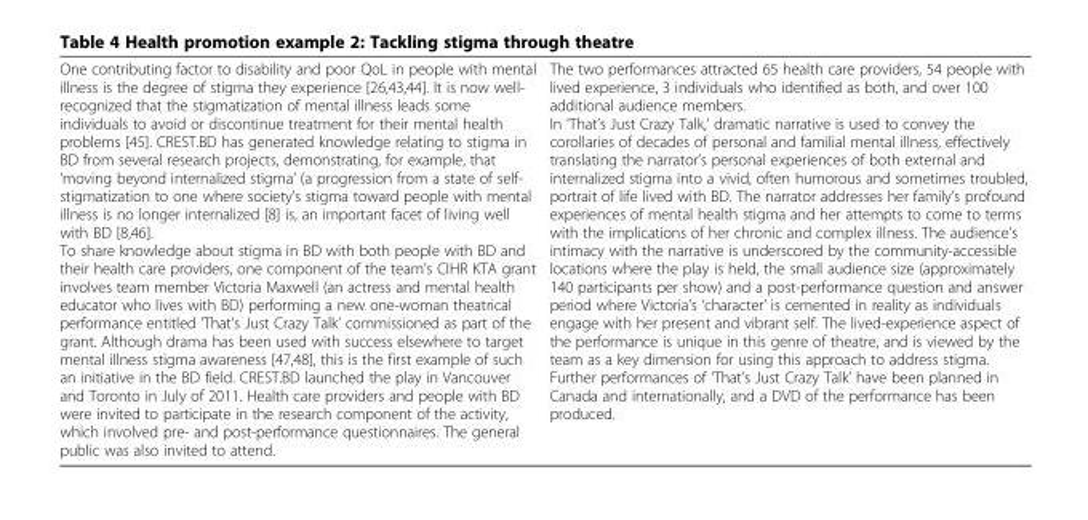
<table><tbody><tr><td>One contributing factor to disability and poor QoL in people with mental illness is the degree of stigma they experience [26,43,44]. It is now well- recognized that the stigmatization of mental illness leads some individuals to avoid or discontinue treatment for their mental health problems [45]. CREST.BD has generated knowledge relating to stigma in BD from several research projects, demonstrating, for example, that ‘moving beyond internalized stigma’ (a progression from a state of self- stigmatization to one where society’s stigma toward people with mental illness is no longer internalized [8] is, an important facet of living well with BD [8,46]. To share knowledge about stigma in BD with both people with BD and their health care providers, one component of the team’s CIHR KTA grant involves team member Victoria Maxwell (an actress and mental health educator who lives with BD) performing a new one-woman theatrical performance entitled ‘That’s Just Crazy Talk’ commissioned as part of the grant. Although drama has been used with success elsewhere to target mental illness stigma awareness [47,48], this is the first example of such an initiative in the BD field. CREST.BD launched the play in Vancouver and Toronto in July of 2011. Health care providers and people with BD were invited to participate in the research component of the activity, which involved pre- and post-performance questionnaires. The general public was also invited to attend.</td><td>The two performances attracted 65 health care providers, 54 people with lived experience, 3 individuals who identified as both, and over 100 additional audience members. In ‘That’s Just Crazy Talk,’ dramatic narrative is used to convey the corollaries of decades of personal and familial mental illness, effectively translating the narrator’s personal experiences of both external and internalized stigma into a vivid, often humorous and sometimes troubled, portrait of life lived with BD. The narrator addresses her family’s profound experiences of mental health stigma and her attempts to come to terms with the implications of her chronic and complex illness. The audience’s intimacy with the narrative is underscored by the community-accessible locations where the play is held, the small audience size (approximately 140 participants per show) and a post-performance question and answer period where Victoria’s ‘character’ is cemented in reality as individuals engage with her present and vibrant self. The lived-experience aspect of the performance is unique in this genre of theatre, and is viewed by the team as a key dimension for using this approach to address stigma. Further performances of ‘That’s Just Crazy Talk’ have been planned in Canada and internationally, and a DVD of the performance has been produced.</td></tr></tbody></table>